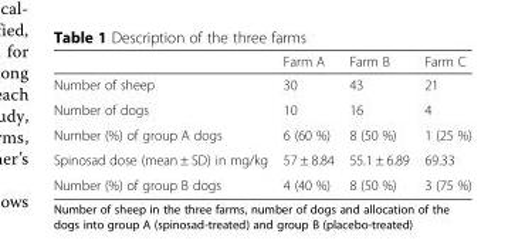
<table><thead><tr><td></td><td>Farm A</td><td>Farm B</td><td>Farm C</td></tr></thead><tbody><tr><td>Number of sheep</td><td>30</td><td>43</td><td>21</td></tr><tr><td>Number of dogs</td><td>10</td><td>16</td><td>4</td></tr><tr><td>Number (%) of group A dogs</td><td>6 (60 %)</td><td>8 (50 %)</td><td>1 (25 %)</td></tr><tr><td>Spinosad dose (mean ± SD) in mg/kg</td><td>57 ± 8.84</td><td>55.1 ± 6.89</td><td>69.33</td></tr><tr><td>Number (%) of group B dogs</td><td>4 (40 %)</td><td>8 (50 %)</td><td>3 (75 %)</td></tr></tbody></table>